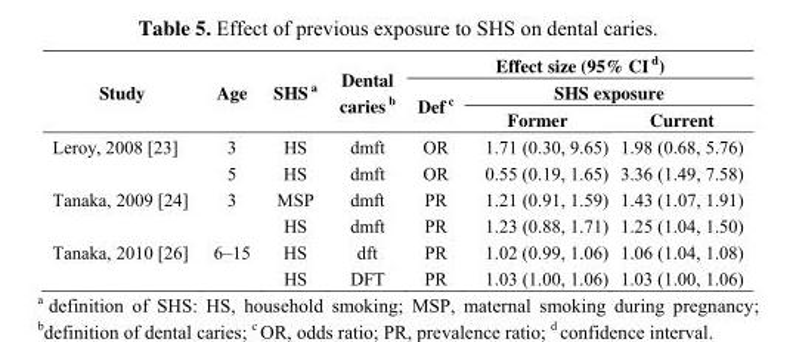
<table><thead><tr><td rowspan="3">Study</td><td rowspan="3">Age</td><td rowspan="3">SHS <sup>a</sup></td><td rowspan="3">Dental caries <sup>b</sup></td><td colspan="3">Effect size (95% CI <sup>d</sup>)</td></tr><tr><td rowspan="2">Def <sup>c</sup></td><td colspan="2">SHS exposure</td></tr><tr><td>Former</td><td>Current</td></tr></thead><tbody><tr><td rowspan="2">Leroy, 2008 [23]</td><td>3</td><td>HS</td><td>dmft</td><td>OR</td><td>1.71 (0.30, 9.65)</td><td>1.98 (0.68, 5.76)</td></tr><tr><td>5</td><td>HS</td><td>dmft</td><td>OR</td><td>0.55 (0.19, 1.65)</td><td>3.36 (1.49, 7.58)</td></tr><tr><td rowspan="2">Tanaka, 2009 [24]</td><td>3</td><td>MSP</td><td>dmft</td><td>PR</td><td>1.21 (0.91, 1.59)</td><td>1.43 (1.07, 1.91)</td></tr><tr><td></td><td>HS</td><td>dmft</td><td>PR</td><td>1.23 (0.88, 1.71)</td><td>1.25 (1.04, 1.50)</td></tr><tr><td rowspan="2">Tanaka, 2010 [26]</td><td>6–15</td><td>HS</td><td>dft</td><td>PR</td><td>1.02 (0.99, 1.06)</td><td>1.06 (1.04, 1.08)</td></tr><tr><td></td><td>HS</td><td>DFT</td><td>PR</td><td>1.03 (1.00, 1.06)</td><td>1.03 (1.00, 1.06)</td></tr></tbody></table>